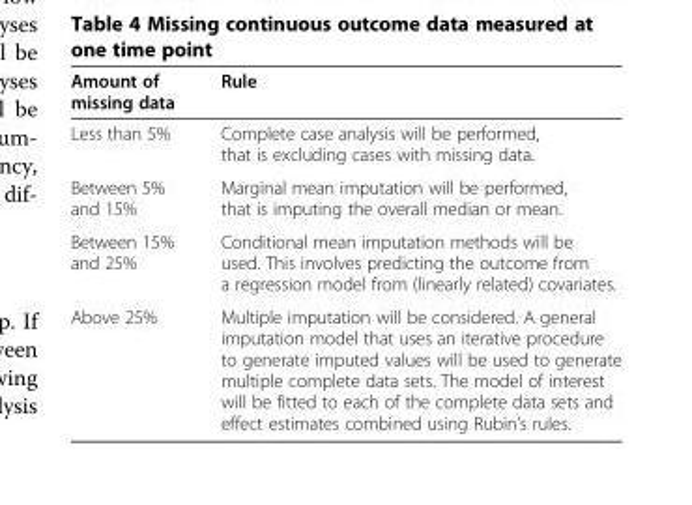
<table><thead><tr><td>Amount of missing data</td><td>Rule</td></tr></thead><tbody><tr><td>Less than 5%</td><td>Complete case analysis will be performed, that is excluding cases with missing data.</td></tr><tr><td>Between 5% and 15%</td><td>Marginal mean imputation will be performed, that is imputing the overall median or mean.</td></tr><tr><td>Between 15% and 25%</td><td>Conditional mean imputation methods will be used. This involves predicting the outcome from a regression model from (linearly related) covariates.</td></tr><tr><td>Above 25%</td><td>Multiple imputation will be considered. A general imputation model that uses an iterative procedure to generate imputed values will be used to generate multiple complete data sets. The model of interest will be fitted to each of the complete data sets and effect estimates combined using Rubin’s rules.</td></tr></tbody></table>